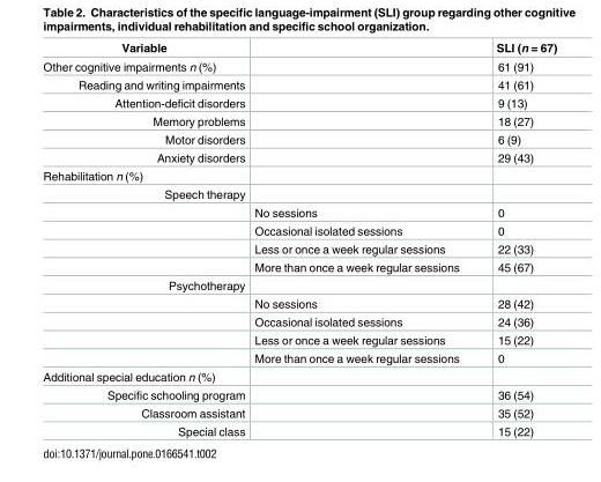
<table><thead><tr><td>Variable</td><td></td><td>SLI (n = 67)</td></tr></thead><tbody><tr><td>Other cognitive impairments n (%)</td><td></td><td>61 (91)</td></tr><tr><td>Reading and writing impairments</td><td></td><td>41 (61)</td></tr><tr><td>Attention-deficit disorders</td><td></td><td>9 (13)</td></tr><tr><td>Memory problems</td><td></td><td>18 (27)</td></tr><tr><td>Motor disorders</td><td></td><td>6 (9)</td></tr><tr><td>Anxiety disorders</td><td></td><td>29 (43)</td></tr><tr><td colspan="3">Rehabilitation n (%)</td></tr><tr><td colspan="3">Speech therapy</td></tr><tr><td></td><td>No sessions</td><td>0</td></tr><tr><td></td><td>Occasional isolated sessions</td><td>0</td></tr><tr><td></td><td>Less or once a week regular sessions</td><td>22 (33)</td></tr><tr><td></td><td>More than once a week regular sessions</td><td>45 (67)</td></tr><tr><td colspan="3">Psychotherapy</td></tr><tr><td></td><td>No sessions</td><td>28 (42)</td></tr><tr><td></td><td>Occasional isolated sessions</td><td>24 (36)</td></tr><tr><td></td><td>Less or once a week regular sessions</td><td>15 (22)</td></tr><tr><td></td><td>More than once a week regular sessions</td><td>0</td></tr><tr><td colspan="3">Additional special education n (%)</td></tr><tr><td>Specific schooling program</td><td></td><td>36 (54)</td></tr><tr><td>Classroom assistant</td><td></td><td>35 (52)</td></tr><tr><td>Special class</td><td></td><td>15 (22)</td></tr></tbody></table>